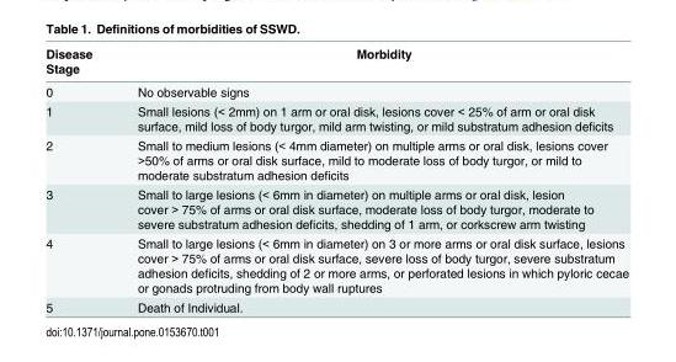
<table><thead><tr><td>Disease Stage</td><td>Morbidity</td></tr></thead><tbody><tr><td>0</td><td>No observable signs</td></tr><tr><td>1</td><td>Small lesions (&lt; 2mm) on 1 arm or oral disk, lesions cover &lt; 25% of arm or oral disk surface, mild loss of body turgor, mild arm twisting, or mild substratum adhesion deficits</td></tr><tr><td>2</td><td>Small to medium lesions (&lt; 4mm diameter) on multiple arms or oral disk, lesions cover &gt;50% of arms or oral disk surface, mild to moderate loss of body turgor, or mild to moderate substratum adhesion deficits</td></tr><tr><td>3</td><td>Small to large lesions (&lt; 6mm in diameter) on multiple arms or oral disk, lesion cover &gt; 75% of arms or oral disk surface, moderate loss of body turgor, moderate to severe substratum adhesion deficits, shedding of 1 arm, or corkscrew arm twisting</td></tr><tr><td>4</td><td>Small to large lesions (&lt; 6mm in diameter) on 3 or more arms or oral disk surface, lesions cover &gt; 75% of arms or oral disk surface, severe loss of body turgor, severe substratum adhesion deficits, shedding of 2 or more arms, or perforated lesions in which pyloric cecae or gonads protruding from body wall ruptures</td></tr><tr><td>5</td><td>Death of Individual.</td></tr></tbody></table>